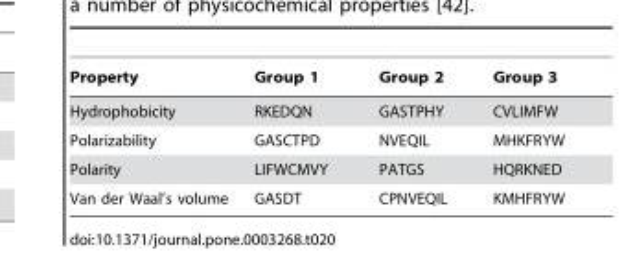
<table><thead><tr><td>Property</td><td>Group 1</td><td>Group 2</td><td>Group 3</td></tr></thead><tbody><tr><td>Hydrophobicity</td><td>RKEDQN</td><td>GASTPHY</td><td>CVLIMFW</td></tr><tr><td>Polarizability</td><td>GASCTPD</td><td>NVEQIL</td><td>MHKFRYW</td></tr><tr><td>Polarity</td><td>LIFWCMVY</td><td>PATGS</td><td>HQRKNED</td></tr><tr><td>Van der Waal’s volume</td><td>GASDT</td><td>CPNVEQIL</td><td>KMHFRYW</td></tr></tbody></table>